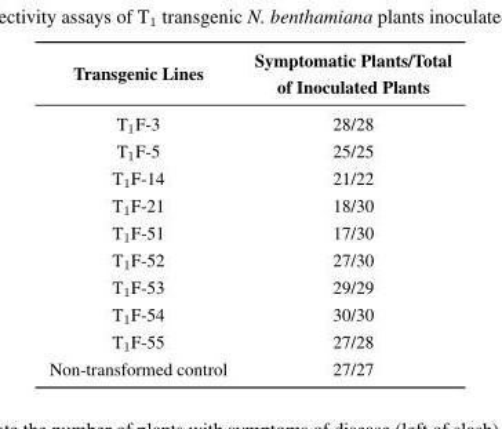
<table><thead><tr><td>Transgenic Lines</td><td>Symptomatic Plants/Total of Inoculated Plants</td></tr></thead><tbody><tr><td>T<sub>1</sub>F-3</td><td>28/28</td></tr><tr><td>T<sub>1</sub>F-5</td><td>25/25</td></tr><tr><td>T<sub>1</sub>F-14</td><td>21/22</td></tr><tr><td>T<sub>1</sub>F-21</td><td>18/30</td></tr><tr><td>T<sub>1</sub>F-51</td><td>17/30</td></tr><tr><td>T<sub>1</sub>F-52</td><td>27/30</td></tr><tr><td>T<sub>1</sub>F-53</td><td>29/29</td></tr><tr><td>T<sub>1</sub>F-54</td><td>30/30</td></tr><tr><td>T<sub>1</sub>F-55</td><td>27/28</td></tr><tr><td>Non-transformed control</td><td>27/27</td></tr></tbody></table>